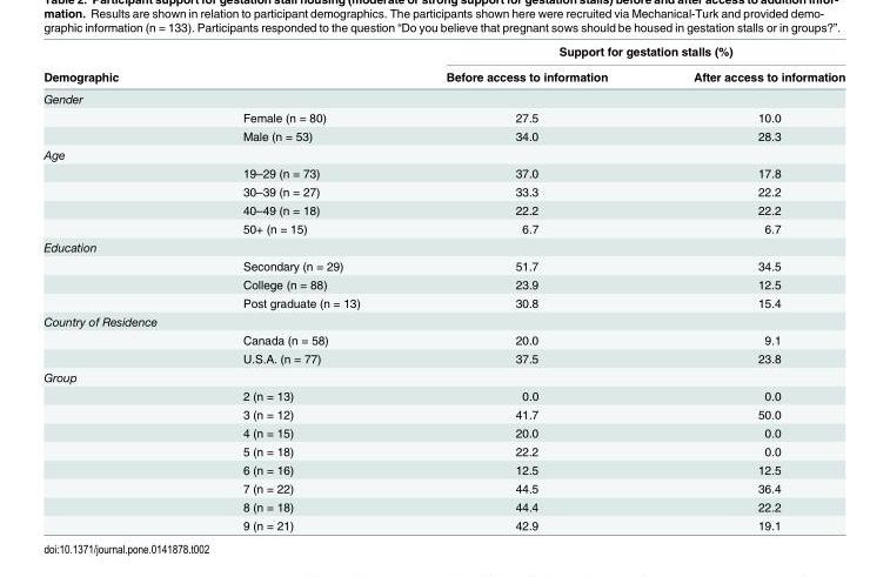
<table><thead><tr><td rowspan="2">Demographic</td><td rowspan="2"></td><td colspan="2">Support for gestation stalls (%)</td></tr><tr><td>Before access to information</td><td>After access to information</td></tr></thead><tbody><tr><td colspan="4">Gender</td></tr><tr><td></td><td>Female (n = 80)</td><td>27.5</td><td>10.0</td></tr><tr><td></td><td>Male (n = 53)</td><td>34.0</td><td>28.3</td></tr><tr><td colspan="4">Age</td></tr><tr><td></td><td>19–29 (n = 73)</td><td>37.0</td><td>17.8</td></tr><tr><td></td><td>30–39 (n = 27)</td><td>33.3</td><td>22.2</td></tr><tr><td></td><td>40–49 (n = 18)</td><td>22.2</td><td>22.2</td></tr><tr><td></td><td>50+ (n = 15)</td><td>6.7</td><td>6.7</td></tr><tr><td colspan="4">Education</td></tr><tr><td></td><td>Secondary (n = 29)</td><td>51.7</td><td>34.5</td></tr><tr><td></td><td>College (n = 88)</td><td>23.9</td><td>12.5</td></tr><tr><td></td><td>Post graduate (n = 13)</td><td>30.8</td><td>15.4</td></tr><tr><td colspan="4">Country of Residence</td></tr><tr><td></td><td>Canada (n = 58)</td><td>20.0</td><td>9.1</td></tr><tr><td></td><td>U.S.A. (n = 77)</td><td>37.5</td><td>23.8</td></tr><tr><td colspan="4">Group</td></tr><tr><td></td><td>2 (n = 13)</td><td>0.0</td><td>0.0</td></tr><tr><td></td><td>3 (n = 12)</td><td>41.7</td><td>50.0</td></tr><tr><td></td><td>4 (n = 15)</td><td>20.0</td><td>0.0</td></tr><tr><td></td><td>5 (n = 18)</td><td>22.2</td><td>0.0</td></tr><tr><td></td><td>6 (n = 16)</td><td>12.5</td><td>12.5</td></tr><tr><td></td><td>7 (n = 22)</td><td>44.5</td><td>36.4</td></tr><tr><td></td><td>8 (n = 18)</td><td>44.4</td><td>22.2</td></tr><tr><td></td><td>9 (n = 21)</td><td>42.9</td><td>19.1</td></tr></tbody></table>